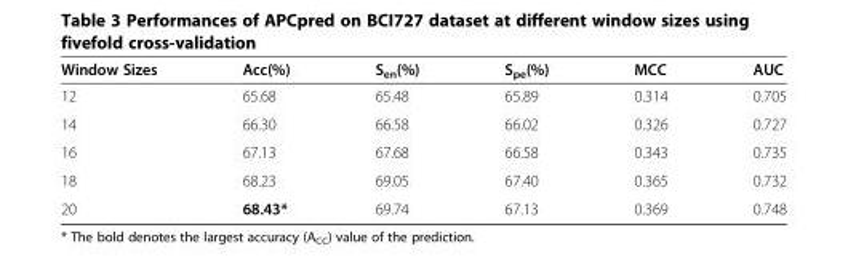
<table><thead><tr><td>Window Sizes</td><td>Acc(%)</td><td>S<sub>en</sub>(%)</td><td>S<sub>pe</sub>(%)</td><td>MCC</td><td>AUC</td></tr></thead><tbody><tr><td>12</td><td>65.68</td><td>65.48</td><td>65.89</td><td>0.314</td><td>0.705</td></tr><tr><td>14</td><td>66.30</td><td>66.58</td><td>66.02</td><td>0.326</td><td>0.727</td></tr><tr><td>16</td><td>67.13</td><td>67.68</td><td>66.58</td><td>0.343</td><td>0.735</td></tr><tr><td>18</td><td>68.23</td><td>69.05</td><td>67.40</td><td>0.365</td><td>0.732</td></tr><tr><td>20</td><td>68.43*</td><td>69.74</td><td>67.13</td><td>0.369</td><td>0.748</td></tr></tbody></table>